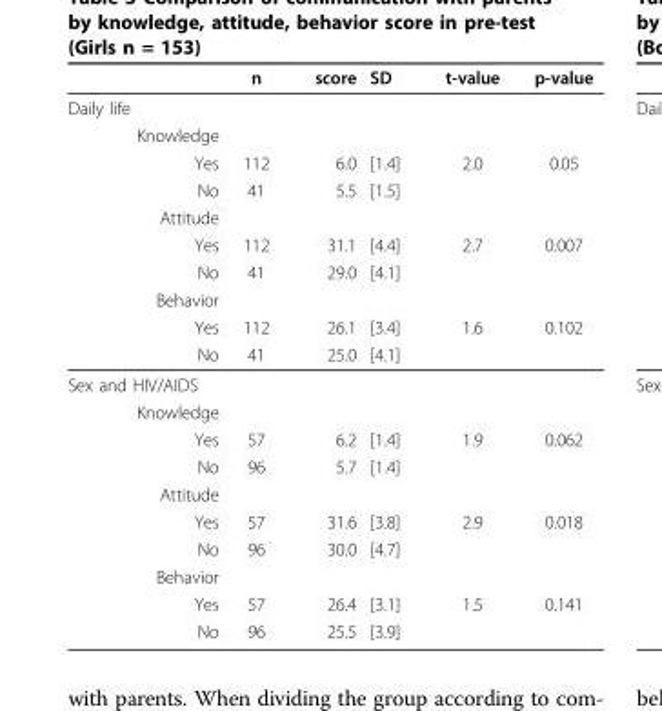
<table><thead><tr><td></td><td>n</td><td>score</td><td>SD</td><td>t-value</td><td>p-value</td></tr></thead><tbody><tr><td colspan="6">Daily life</td></tr><tr><td colspan="6">Knowledge</td></tr><tr><td>Yes</td><td>112</td><td>6.0</td><td>[1.4]</td><td>2.0</td><td>0.05</td></tr><tr><td>No</td><td>41</td><td>5.5</td><td>[1.5]</td><td></td><td></td></tr><tr><td colspan="6">Attitude</td></tr><tr><td>Yes</td><td>112</td><td>31.1</td><td>[4.4]</td><td>2.7</td><td>0.007</td></tr><tr><td>No</td><td>41</td><td>29.0</td><td>[4.1]</td><td></td><td></td></tr><tr><td colspan="6">Behavior</td></tr><tr><td>Yes</td><td>112</td><td>26.1</td><td>[3.4]</td><td>1.6</td><td>0.102</td></tr><tr><td>No</td><td>41</td><td>25.0</td><td>[4.1]</td><td></td><td></td></tr><tr><td colspan="6">Sex and HIV/AIDS</td></tr><tr><td colspan="6">Knowledge</td></tr><tr><td>Yes</td><td>57</td><td>6.2</td><td>[1.4]</td><td>1.9</td><td>0.062</td></tr><tr><td>No</td><td>96</td><td>5.7</td><td>[1.4]</td><td></td><td></td></tr><tr><td colspan="6">Attitude</td></tr><tr><td>Yes</td><td>57</td><td>31.6</td><td>[3.8]</td><td>2.9</td><td>0.018</td></tr><tr><td>No</td><td>96</td><td>30.0</td><td>[4.7]</td><td></td><td></td></tr><tr><td colspan="6">Behavior</td></tr><tr><td>Yes</td><td>57</td><td>26.4</td><td>[3.1]</td><td>1.5</td><td>0.141</td></tr><tr><td>No</td><td>96</td><td>25.5</td><td>[3.9]</td><td></td><td></td></tr></tbody></table>